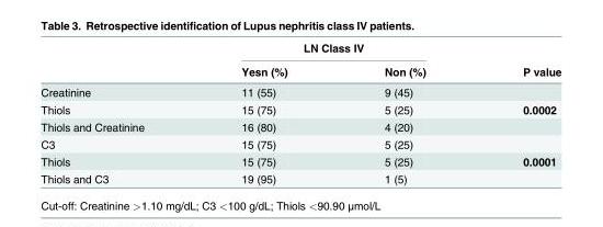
<table><thead><tr><td rowspan="2"></td><td colspan="2">LN Class IV</td><td rowspan="2">P value</td></tr><tr><td>Yesn (%)</td><td>Non (%)</td></tr></thead><tbody><tr><td>Creatinine</td><td>11 (55)</td><td>9 (45)</td><td></td></tr><tr><td>Thiols</td><td>15 (75)</td><td>5 (25)</td><td>0.0002</td></tr><tr><td>Thiols and Creatinine</td><td>16 (80)</td><td>4 (20)</td><td></td></tr><tr><td>C3</td><td>15 (75)</td><td>5 (25)</td><td></td></tr><tr><td>Thiols</td><td>15 (75)</td><td>5 (25)</td><td>0.0001</td></tr><tr><td>Thiols and C3</td><td>19 (95)</td><td>1 (5)</td><td></td></tr></tbody></table>